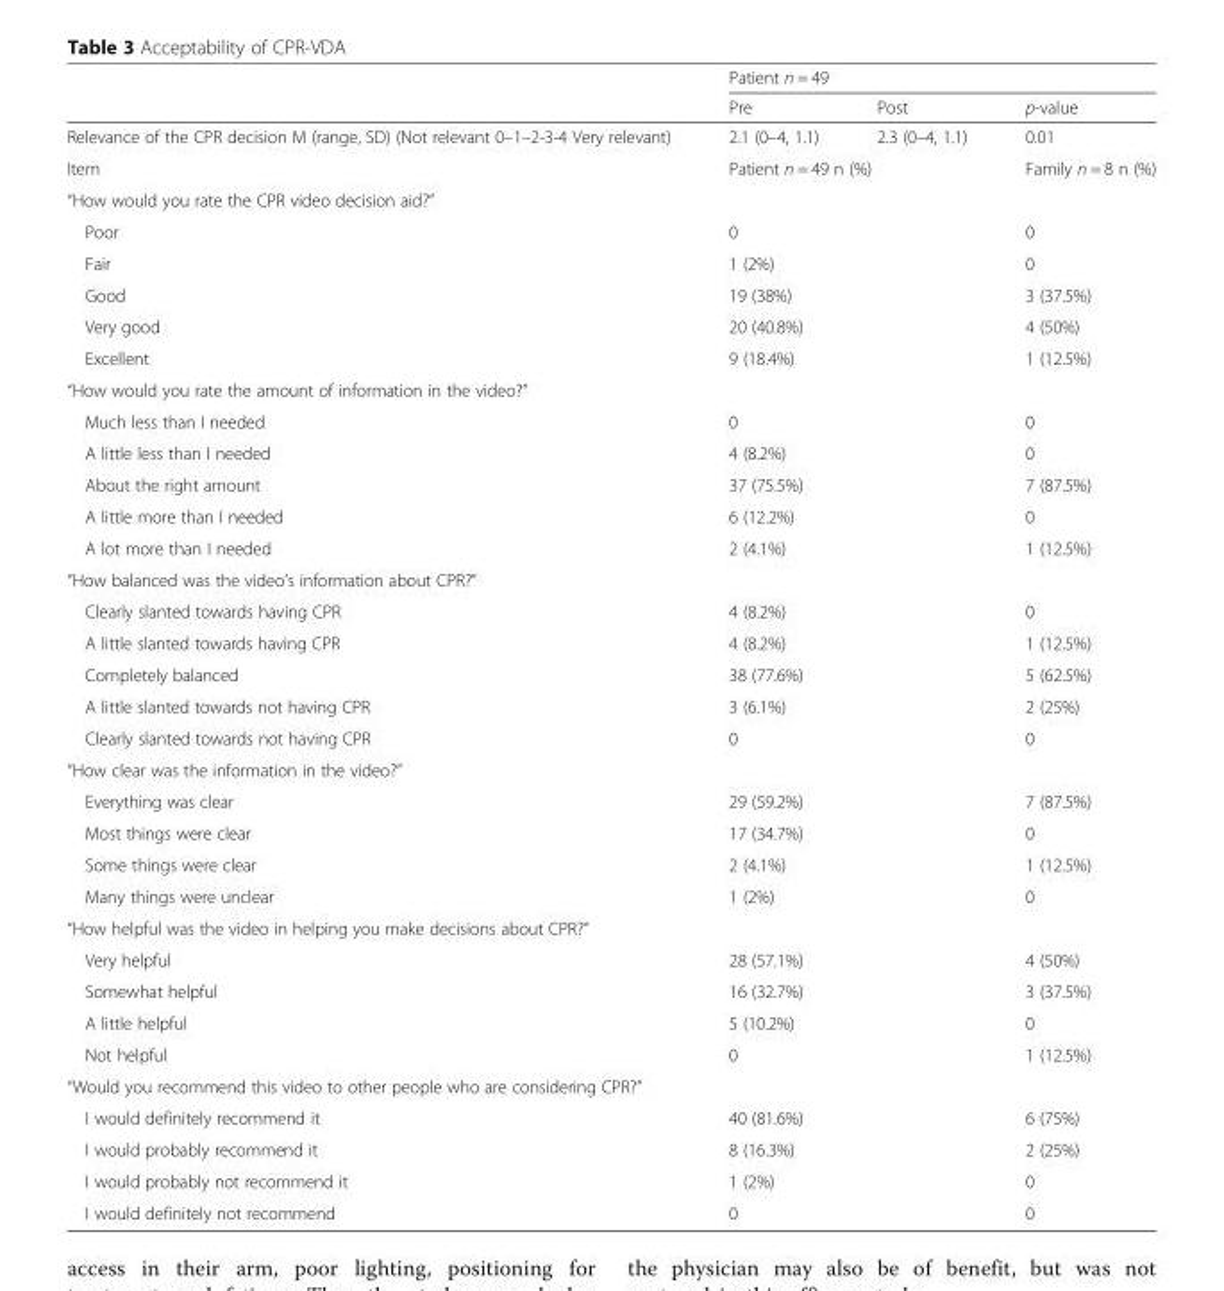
<table><thead><tr><td rowspan="2"></td><td colspan="3">Patient n = 49</td></tr><tr><td>Pre</td><td>Post</td><td>p-value</td></tr></thead><tbody><tr><td>Relevance of the CPR decision M (range, SD) (Not relevant 0–1–2-3-4 Very relevant)</td><td>2.1 (0–4, 1.1)</td><td>2.3 (0–4, 1.1)</td><td>0.01</td></tr><tr><td>Item</td><td colspan="2">Patient n = 49 n (%)</td><td>Family n = 8 n (%)</td></tr><tr><td colspan="4">“How would you rate the CPR video decision aid?”</td></tr><tr><td>Poor</td><td colspan="2">0</td><td>0</td></tr><tr><td>Fair</td><td colspan="2">1 (2%)</td><td>0</td></tr><tr><td>Good</td><td colspan="2">19 (38%)</td><td>3 (37.5%)</td></tr><tr><td>Very good</td><td colspan="2">20 (40.8%)</td><td>4 (50%)</td></tr><tr><td>Excellent</td><td colspan="2">9 (18.4%)</td><td>1 (12.5%)</td></tr><tr><td colspan="4">“How would you rate the amount of information in the video?”</td></tr><tr><td>Much less than I needed</td><td colspan="2">0</td><td>0</td></tr><tr><td>A little less than I needed</td><td colspan="2">4 (8.2%)</td><td>0</td></tr><tr><td>About the right amount</td><td colspan="2">37 (75.5%)</td><td>7 (87.5%)</td></tr><tr><td>A little more than I needed</td><td colspan="2">6 (12.2%)</td><td>0</td></tr><tr><td>A lot more than I needed</td><td colspan="2">2 (4.1%)</td><td>1 (12.5%)</td></tr><tr><td colspan="4">“How balanced was the video’s information about CPR?”</td></tr><tr><td>Clearly slanted towards having CPR</td><td colspan="2">4 (8.2%)</td><td>0</td></tr><tr><td>A little slanted towards having CPR</td><td colspan="2">4 (8.2%)</td><td>1 (12.5%)</td></tr><tr><td>Completely balanced</td><td colspan="2">38 (77.6%)</td><td>5 (62.5%)</td></tr><tr><td>A little slanted towards not having CPR</td><td colspan="2">3 (6.1%)</td><td>2 (25%)</td></tr><tr><td>Clearly slanted towards not having CPR</td><td colspan="2">0</td><td>0</td></tr><tr><td colspan="4">“How clear was the information in the video?”</td></tr><tr><td>Everything was clear</td><td colspan="2">29 (59.2%)</td><td>7 (87.5%)</td></tr><tr><td>Most things were clear</td><td colspan="2">17 (34.7%)</td><td>0</td></tr><tr><td>Some things were clear</td><td colspan="2">2 (4.1%)</td><td>1 (12.5%)</td></tr><tr><td>Many things were unclear</td><td colspan="2">1 (2%)</td><td>0</td></tr><tr><td colspan="4">“How helpful was the video in helping you make decisions about CPR?”</td></tr><tr><td>Very helpful</td><td colspan="2">28 (57.1%)</td><td>4 (50%)</td></tr><tr><td>Somewhat helpful</td><td colspan="2">16 (32.7%)</td><td>3 (37.5%)</td></tr><tr><td>A little helpful</td><td colspan="2">5 (10.2%)</td><td>0</td></tr><tr><td>Not helpful</td><td colspan="2">0</td><td>1 (12.5%)</td></tr><tr><td colspan="4">“Would you recommend this video to other people who are considering CPR?”</td></tr><tr><td>I would definitely recommend it</td><td colspan="2">40 (81.6%)</td><td>6 (75%)</td></tr><tr><td>I would probably recommend it</td><td colspan="2">8 (16.3%)</td><td>2 (25%)</td></tr><tr><td>I would probably not recommend it</td><td colspan="2">1 (2%)</td><td>0</td></tr><tr><td>I would definitely not recommend</td><td colspan="2">0</td><td>0</td></tr></tbody></table>